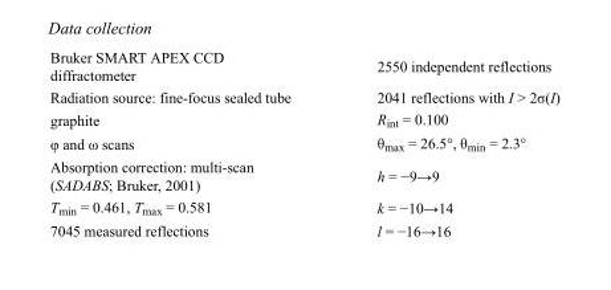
<table><tbody><tr><td>Bruker SMART APEX CCD diffractometer</td><td>2550 independent reflections</td></tr><tr><td>Radiation source: fine-focus sealed tube</td><td>2041 reflections with I &gt; 2σ(I)</td></tr><tr><td>graphite</td><td>R<sub>int</sub> = 0.100</td></tr><tr><td>φ and ω scans</td><td>θ<sub>max</sub> = 26.5°, θ<sub>min</sub> = 2.3°</td></tr><tr><td>Absorption correction: multi-scan (SADABS; Bruker, 2001)</td><td>h = −9→9</td></tr><tr><td>T<sub>min</sub> = 0.461, T<sub>max</sub> = 0.581</td><td>k = −10→14</td></tr><tr><td>7045 measured reflections</td><td>l = −16→16</td></tr></tbody></table>